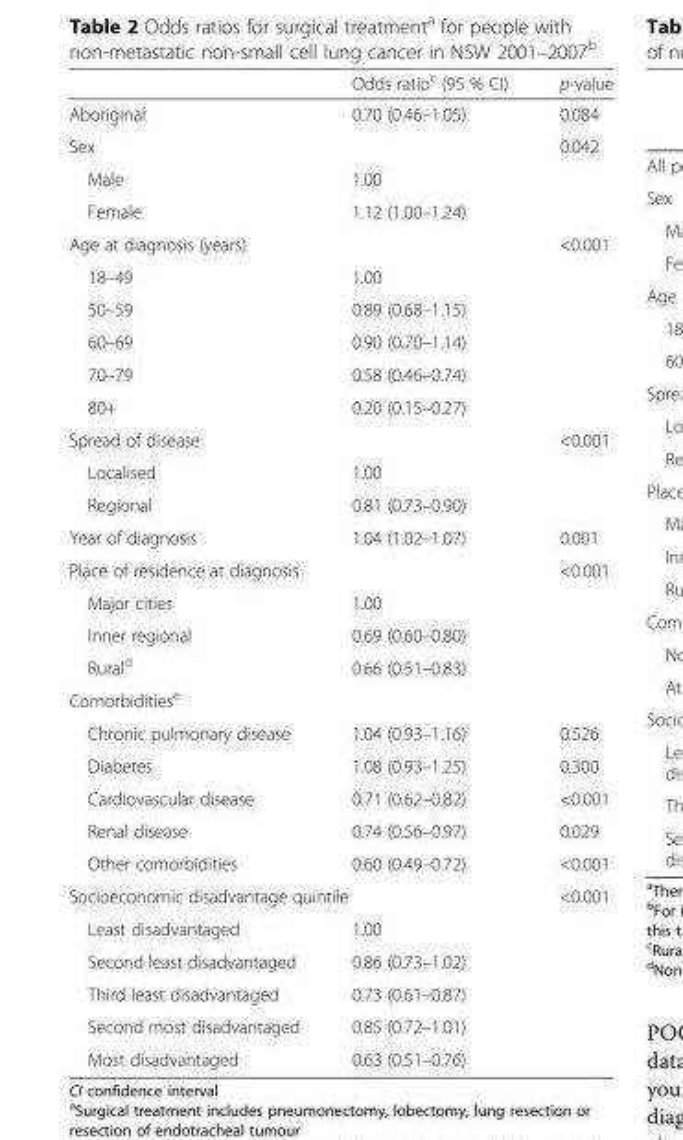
<table><thead><tr><td></td><td>Odds ratio<sup>c</sup> (95 % CI)</td><td>p-value</td></tr></thead><tbody><tr><td>Aboriginal</td><td>0.70 (0.46–1.05)</td><td>0.084</td></tr><tr><td>Sex</td><td></td><td>0.042</td></tr><tr><td>Male</td><td>1.00</td><td></td></tr><tr><td>Female</td><td>1.12 (1.00–1.24)</td><td></td></tr><tr><td>Age at diagnosis (years)</td><td></td><td>&lt;0.001</td></tr><tr><td>18–49</td><td>1.00</td><td></td></tr><tr><td>50–59</td><td>0.89 (0.68–1.15)</td><td></td></tr><tr><td>60–69</td><td>0.90 (0.70–1.14)</td><td></td></tr><tr><td>70–79</td><td>0.58 (0.46–0.74)</td><td></td></tr><tr><td>80+</td><td>0.20 (0.15–0.27)</td><td></td></tr><tr><td>Spread of disease</td><td></td><td>&lt;0.001</td></tr><tr><td>Localised</td><td>1.00</td><td></td></tr><tr><td>Regional</td><td>0.81 (0.73–0.90)</td><td></td></tr><tr><td>Year of diagnosis</td><td>1.04 (1.02–1.07)</td><td>0.001</td></tr><tr><td>Place of residence at diagnosis</td><td></td><td>&lt;0.001</td></tr><tr><td>Major cities</td><td>1.00</td><td></td></tr><tr><td>Inner regional</td><td>0.69 (0.60–0.80)</td><td></td></tr><tr><td>Rural<sup>d</sup></td><td>0.66 (0.51–0.83)</td><td></td></tr><tr><td colspan="3">Comorbidities<sup>e</sup></td></tr><tr><td>Chronic pulmonary disease</td><td>1.04 (0.93–1.16)</td><td>0.526</td></tr><tr><td>Diabetes</td><td>1.08 (0.93–1.25)</td><td>0.300</td></tr><tr><td>Cardiovascular disease</td><td>0.71 (0.62–0.82)</td><td>&lt;0.001</td></tr><tr><td>Renal disease</td><td>0.74 (0.56–0.97)</td><td>0.029</td></tr><tr><td>Other comorbidities</td><td>0.60 (0.49–0.72)</td><td>&lt;0.001</td></tr><tr><td colspan="2">Socioeconomic disadvantage quintile</td><td>&lt;0.001</td></tr><tr><td>Least disadvantaged</td><td>1.00</td><td></td></tr><tr><td>Second least disadvantaged</td><td>0.86 (0.73–1.02)</td><td></td></tr><tr><td>Third least disadvantaged</td><td>0.73 (0.61–0.87)</td><td></td></tr><tr><td>Second most disadvantaged</td><td>0.85 (0.72–1.01)</td><td></td></tr><tr><td>Most disadvantaged</td><td>0.63 (0.51–0.76)</td><td></td></tr></tbody></table>